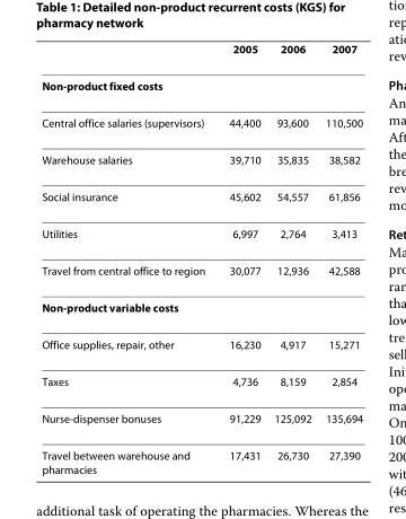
<table><thead><tr><td></td><td>2005</td><td>2006</td><td>2007</td></tr></thead><tbody><tr><td colspan="4">Non-product fixed costs</td></tr><tr><td>Central office salaries (supervisors)</td><td>44,400</td><td>93,600</td><td>110,500</td></tr><tr><td>Warehouse salaries</td><td>39,710</td><td>35,835</td><td>38,582</td></tr><tr><td>Social insurance</td><td>45,602</td><td>54,557</td><td>61,856</td></tr><tr><td>Utilities</td><td>6,997</td><td>2,764</td><td>3,413</td></tr><tr><td>Travel from central office to region</td><td>30,077</td><td>12,936</td><td>42,588</td></tr><tr><td colspan="4">Non-product variable costs</td></tr><tr><td>Office supplies, repair, other</td><td>16,230</td><td>4,917</td><td>15,271</td></tr><tr><td>Taxes</td><td>4,736</td><td>8,159</td><td>2,854</td></tr><tr><td>Nurse-dispenser bonuses</td><td>91,229</td><td>125,092</td><td>135,694</td></tr><tr><td>Travel between warehouse and pharmacies</td><td>17,431</td><td>26,730</td><td>27,390</td></tr></tbody></table>